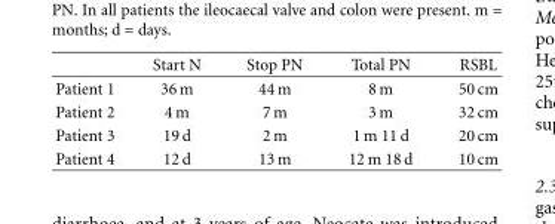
<table><thead><tr><td></td><td>Start N</td><td>Stop PN</td><td>Total PN</td><td>RSBL</td></tr></thead><tbody><tr><td>Patient 1</td><td>36 m</td><td>44 m</td><td>8 m</td><td>50 cm</td></tr><tr><td>Patient 2</td><td>4 m</td><td>7 m</td><td>3 m</td><td>32 cm</td></tr><tr><td>Patient 3</td><td>19 d</td><td>2 m</td><td>1 m 11 d</td><td>20 cm</td></tr><tr><td>Patient 4</td><td>12 d</td><td>13 m</td><td>12 m 18 d</td><td>10 cm</td></tr></tbody></table>